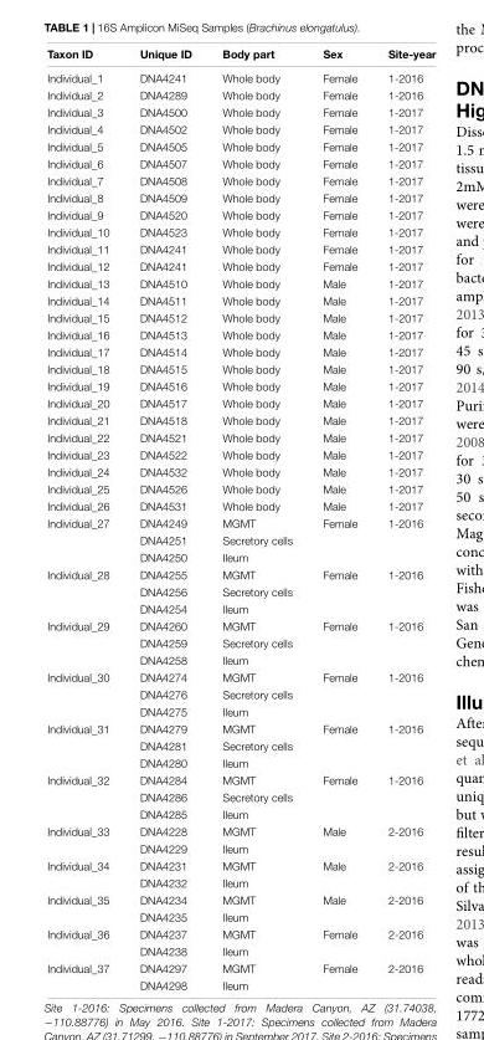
<table><thead><tr><td>Taxon ID</td><td>Unique ID</td><td>Body part</td><td>Sex</td><td>Site-year</td></tr></thead><tbody><tr><td>Individual_1</td><td>DNA4241</td><td>Whole body</td><td>Female</td><td>1-2016</td></tr><tr><td>Individual_2</td><td>DNA4289</td><td>Whole body</td><td>Female</td><td>1-2016</td></tr><tr><td>Individual_3</td><td>DNA4500</td><td>Whole body</td><td>Female</td><td>1-2017</td></tr><tr><td>Individual_4</td><td>DNA4502</td><td>Whole body</td><td>Female</td><td>1-2017</td></tr><tr><td>Individual_5</td><td>DNA4505</td><td>Whole body</td><td>Female</td><td>1-2017</td></tr><tr><td>Individual_6</td><td>DNA4507</td><td>Whole body</td><td>Female</td><td>1-2017</td></tr><tr><td>Individual_7</td><td>DNA4508</td><td>Whole body</td><td>Female</td><td>1-2017</td></tr><tr><td>Individual_8</td><td>DNA4509</td><td>Whole body</td><td>Female</td><td>1-2017</td></tr><tr><td>Individual_9</td><td>DNA4520</td><td>Whole body</td><td>Female</td><td>1-2017</td></tr><tr><td>Individual_10</td><td>DNA4523</td><td>Whole body</td><td>Female</td><td>1-2017</td></tr><tr><td>Individual_11</td><td>DNA4241</td><td>Whole body</td><td>Female</td><td>1-2017</td></tr><tr><td>Individual_12</td><td>DNA4241</td><td>Whole body</td><td>Female</td><td>1-2017</td></tr><tr><td>Individual_13</td><td>DNA4510</td><td>Whole body</td><td>Male</td><td>1-2017</td></tr><tr><td>Individual_14</td><td>DNA4511</td><td>Whole body</td><td>Male</td><td>1-2017</td></tr><tr><td>Individual_15</td><td>DNA4512</td><td>Whole body</td><td>Male</td><td>1-2017</td></tr><tr><td>Individual_16</td><td>DNA4513</td><td>Whole body</td><td>Male</td><td>1-2017</td></tr><tr><td>Individual_17</td><td>DNA4514</td><td>Whole body</td><td>Male</td><td>1-2017</td></tr><tr><td>Individual_18</td><td>DNA4515</td><td>Whole body</td><td>Male</td><td>1-2017</td></tr><tr><td>Individual_19</td><td>DNA4516</td><td>Whole body</td><td>Male</td><td>1-2017</td></tr><tr><td>Individual_20</td><td>DNA4517</td><td>Whole body</td><td>Male</td><td>1-2017</td></tr><tr><td>Individual_21</td><td>DNA4518</td><td>Whole body</td><td>Male</td><td>1-2017</td></tr><tr><td>Individual_22</td><td>DNA4521</td><td>Whole body</td><td>Male</td><td>1-2017</td></tr><tr><td>Individual_23</td><td>DNA4522</td><td>Whole body</td><td>Male</td><td>1-2017</td></tr><tr><td>Individual_24</td><td>DNA4532</td><td>Whole body</td><td>Male</td><td>1-2017</td></tr><tr><td>Individual_25</td><td>DNA4526</td><td>Whole body</td><td>Male</td><td>1-2017</td></tr><tr><td>Individual_26</td><td>DNA4531</td><td>Whole body</td><td>Male</td><td>1-2017</td></tr><tr><td rowspan="3">Individual_27</td><td>DNA4249</td><td>MGMT</td><td>Female</td><td>1-2016</td></tr><tr><td>DNA4251</td><td>Secretory cells</td><td></td><td></td></tr><tr><td>DNA4250</td><td>Ileum</td><td></td><td></td></tr><tr><td rowspan="3">Individual_28</td><td>DNA4255</td><td>MGMT</td><td>Female</td><td>1-2016</td></tr><tr><td>DNA4256</td><td>Secretory cells</td><td></td><td></td></tr><tr><td>DNA4254</td><td>Ileum</td><td></td><td></td></tr><tr><td rowspan="3">Individual_29</td><td>DNA4260</td><td>MGMT</td><td>Female</td><td>1-2016</td></tr><tr><td>DNA4259</td><td>Secretory cells</td><td></td><td></td></tr><tr><td>DNA4258</td><td>Ileum</td><td></td><td></td></tr><tr><td rowspan="3">Individual_30</td><td>DNA4274</td><td>MGMT</td><td>Female</td><td>1-2016</td></tr><tr><td>DNA4276</td><td>Secretory cells</td><td></td><td></td></tr><tr><td>DNA4275</td><td>Ileum</td><td></td><td></td></tr><tr><td rowspan="3">Individual_31</td><td>DNA4279</td><td>MGMT</td><td>Female</td><td>1-2016</td></tr><tr><td>DNA4281</td><td>Secretory cells</td><td></td><td></td></tr><tr><td>DNA4280</td><td>Ileum</td><td></td><td></td></tr><tr><td rowspan="3">Individual_32</td><td>DNA4284</td><td>MGMT</td><td>Female</td><td>1-2016</td></tr><tr><td>DNA4286</td><td>Secretory cells</td><td></td><td></td></tr><tr><td>DNA4285</td><td>Ileum</td><td></td><td></td></tr><tr><td rowspan="2">Individual_33</td><td>DNA4228</td><td>MGMT</td><td>Male</td><td>2-2016</td></tr><tr><td>DNA4229</td><td>Ileum</td><td></td><td></td></tr><tr><td rowspan="2">Individual_34</td><td>DNA4231</td><td>MGMT</td><td>Male</td><td>2-2016</td></tr><tr><td>DNA4232</td><td>Ileum</td><td></td><td></td></tr><tr><td rowspan="2">Individual_35</td><td>DNA4234</td><td>MGMT</td><td>Male</td><td>2-2016</td></tr><tr><td>DNA4235</td><td>Ileum</td><td></td><td></td></tr><tr><td rowspan="2">Individual_36</td><td>DNA4237</td><td>MGMT</td><td>Female</td><td>2-2016</td></tr><tr><td>DNA4238</td><td>Ileum</td><td></td><td></td></tr><tr><td rowspan="2">Individual_37</td><td>DNA4297</td><td>MGMT</td><td>Female</td><td>2-2016</td></tr><tr><td>DNA4298</td><td>Ileum</td><td></td><td></td></tr></tbody></table>